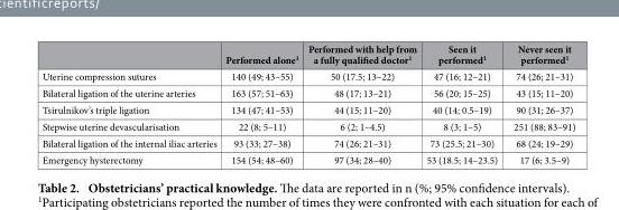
<table><thead><tr><td></td><td>Performed alone<sup>1</sup></td><td>Performed with help from a fully qualified doctor<sup>1</sup></td><td>Seen it performed<sup>1</sup></td><td>Never seen it performed<sup>1</sup></td></tr></thead><tbody><tr><td>Uterine compression sutures</td><td>140 (49; 43–55)</td><td>50 (17.5; 13–22)</td><td>47 (16; 12–21)</td><td>74 (26; 21–31)</td></tr><tr><td>Bilateral ligation of the uterine arteries</td><td>163 (57; 51–63)</td><td>48 (17; 13–21)</td><td>56 (20; 15–25)</td><td>43 (15; 11–20)</td></tr><tr><td>Tsirulnikov’s triple ligation</td><td>134 (47; 41–53)</td><td>44 (15; 11–20)</td><td>40 (14; 0.5–19)</td><td>90 (31; 26–37)</td></tr><tr><td>Stepwise uterine devascularisation</td><td>22 (8; 5–11)</td><td>6 (2; 1–4.5)</td><td>8 (3; 1–5)</td><td>251 (88; 83–91)</td></tr><tr><td>Bilateral ligation of the internal iliac arteries</td><td>93 (33; 27–38)</td><td>74 (26; 21–31)</td><td>73 (25.5; 21–30)</td><td>68 (24; 19–29)</td></tr><tr><td>Emergency hysterectomy</td><td>154 (54; 48–60)</td><td>97 (34; 28–40)</td><td>53 (18.5; 14–23.5)</td><td>17 (6; 3.5–9)</td></tr></tbody></table>